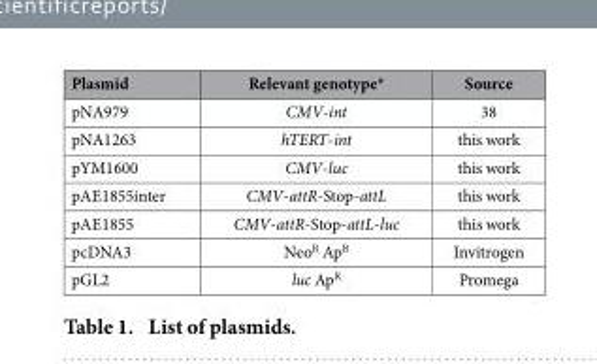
<table><thead><tr><td>Plasmid</td><td>Relevant genotype*</td><td>Source</td></tr></thead><tbody><tr><td>pNA979</td><td>CMV-int</td><td>38</td></tr><tr><td>pNA1263</td><td>hTERT-int</td><td>this work</td></tr><tr><td>pYM1600</td><td>CMV-luc</td><td>this work</td></tr><tr><td>pAE1855inter</td><td>CMV-attR-Stop-attL</td><td>this work</td></tr><tr><td>pAE1855</td><td>CMV-attR-Stop-attL-luc</td><td>this work</td></tr><tr><td>pcDNA3</td><td>Neo<sup>R</sup> Ap<sup>R</sup></td><td>Invitrogen</td></tr><tr><td>pGL2</td><td>luc Ap<sup>R</sup></td><td>Promega</td></tr></tbody></table>